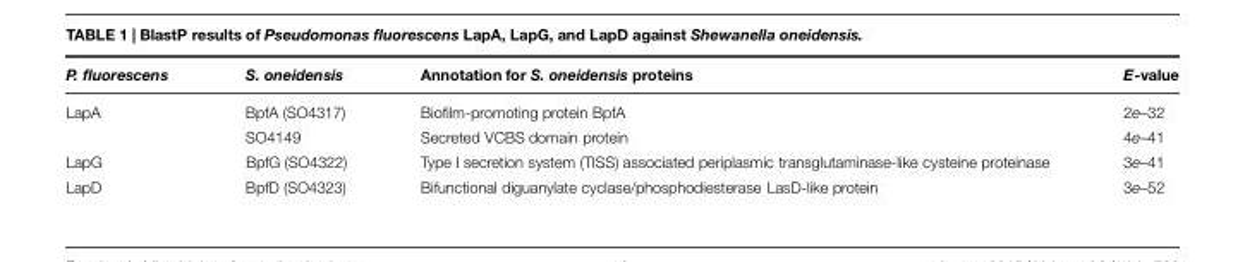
<table><thead><tr><td>P. fluorescens</td><td>S. oneidensis</td><td>Annotation for S. oneidensis proteins</td><td>E-value</td></tr></thead><tbody><tr><td rowspan="2">LapA</td><td>BpfA (SO4317)</td><td>Biofilm-promoting protein BpfA</td><td>2e–32</td></tr><tr><td>SO4149</td><td>Secreted VCBS domain protein</td><td>4e–41</td></tr><tr><td>LapG</td><td>BpfG (SO4322)</td><td>Type I secretion system (TISS) associated periplasmic transglutaminase-like cysteine proteinase</td><td>3e–41</td></tr><tr><td>LapD</td><td>BpfD (SO4323)</td><td>Bifunctional diguanylate cyclase/phosphodiesterase LasD-like protein</td><td>3e–52</td></tr></tbody></table>